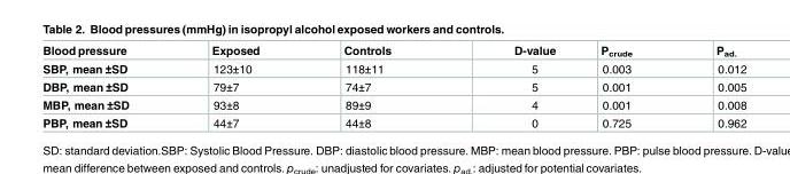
<table><thead><tr><td>Blood pressure</td><td>Exposed</td><td>Controls</td><td>D-value</td><td>P<sub>crude</sub></td><td>P<sub>ad.</sub></td></tr></thead><tbody><tr><td>SBP, mean ±SD</td><td>123±10</td><td>118±11</td><td>5</td><td>0.003</td><td>0.012</td></tr><tr><td>DBP, mean ±SD</td><td>79±7</td><td>74±7</td><td>5</td><td>0.001</td><td>0.005</td></tr><tr><td>MBP, mean ±SD</td><td>93±8</td><td>89±9</td><td>4</td><td>0.001</td><td>0.008</td></tr><tr><td>PBP, mean ±SD</td><td>44±7</td><td>44±8</td><td>0</td><td>0.725</td><td>0.962</td></tr></tbody></table>